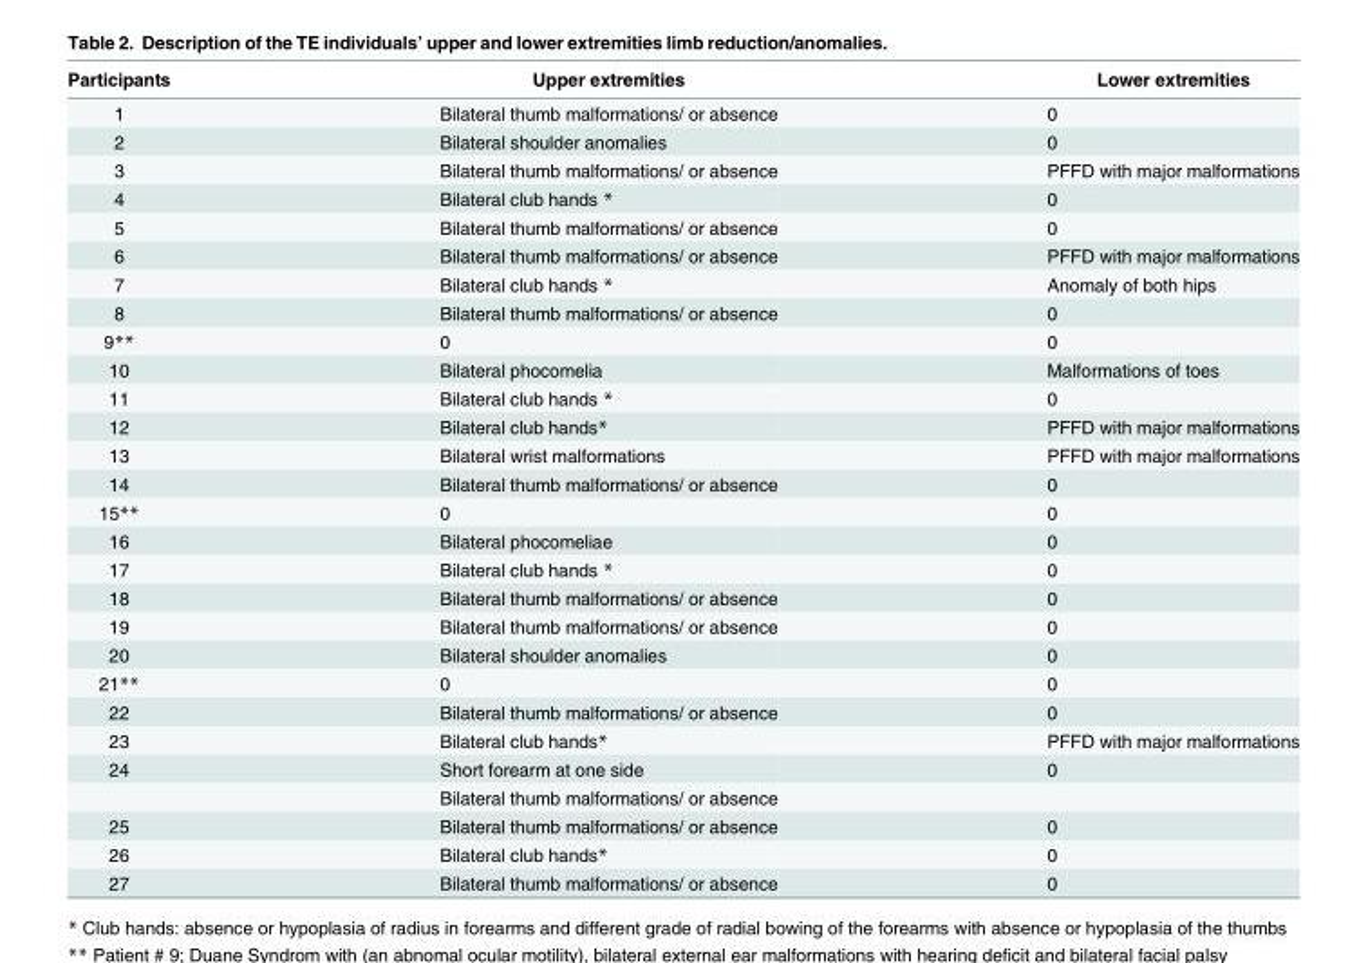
<table><thead><tr><td>Participants</td><td>Upper extremities</td><td>Lower extremities</td></tr></thead><tbody><tr><td>1</td><td>Bilateral thumb malformations/ or absence</td><td>0</td></tr><tr><td>2</td><td>Bilateral shoulder anomalies</td><td>0</td></tr><tr><td>3</td><td>Bilateral thumb malformations/ or absence</td><td>PFFD with major malformations</td></tr><tr><td>4</td><td>Bilateral club hands *</td><td>0</td></tr><tr><td>5</td><td>Bilateral thumb malformations/ or absence</td><td>0</td></tr><tr><td>6</td><td>Bilateral thumb malformations/ or absence</td><td>PFFD with major malformations</td></tr><tr><td>7</td><td>Bilateral club hands *</td><td>Anomaly of both hips</td></tr><tr><td>8</td><td>Bilateral thumb malformations/ or absence</td><td>0</td></tr><tr><td>9**</td><td>0</td><td>0</td></tr><tr><td>10</td><td>Bilateral phocomelia</td><td>Malformations of toes</td></tr><tr><td>11</td><td>Bilateral club hands *</td><td>0</td></tr><tr><td>12</td><td>Bilateral club hands*</td><td>PFFD with major malformations</td></tr><tr><td>13</td><td>Bilateral wrist malformations</td><td>PFFD with major malformations</td></tr><tr><td>14</td><td>Bilateral thumb malformations/ or absence</td><td>0</td></tr><tr><td>15**</td><td>0</td><td>0</td></tr><tr><td>16</td><td>Bilateral phocomeliae</td><td>0</td></tr><tr><td>17</td><td>Bilateral club hands *</td><td>0</td></tr><tr><td>18</td><td>Bilateral thumb malformations/ or absence</td><td>0</td></tr><tr><td>19</td><td>Bilateral thumb malformations/ or absence</td><td>0</td></tr><tr><td>20</td><td>Bilateral shoulder anomalies</td><td>0</td></tr><tr><td>21**</td><td>0</td><td>0</td></tr><tr><td>22</td><td>Bilateral thumb malformations/ or absence</td><td>0</td></tr><tr><td>23</td><td>Bilateral club hands*</td><td>PFFD with major malformations</td></tr><tr><td rowspan="2">24</td><td>Short forearm at one side</td><td>0</td></tr><tr><td>Bilateral thumb malformations/ or absence</td><td></td></tr><tr><td>25</td><td>Bilateral thumb malformations/ or absence</td><td>0</td></tr><tr><td>26</td><td>Bilateral club hands*</td><td>0</td></tr><tr><td>27</td><td>Bilateral thumb malformations/ or absence</td><td>0</td></tr></tbody></table>